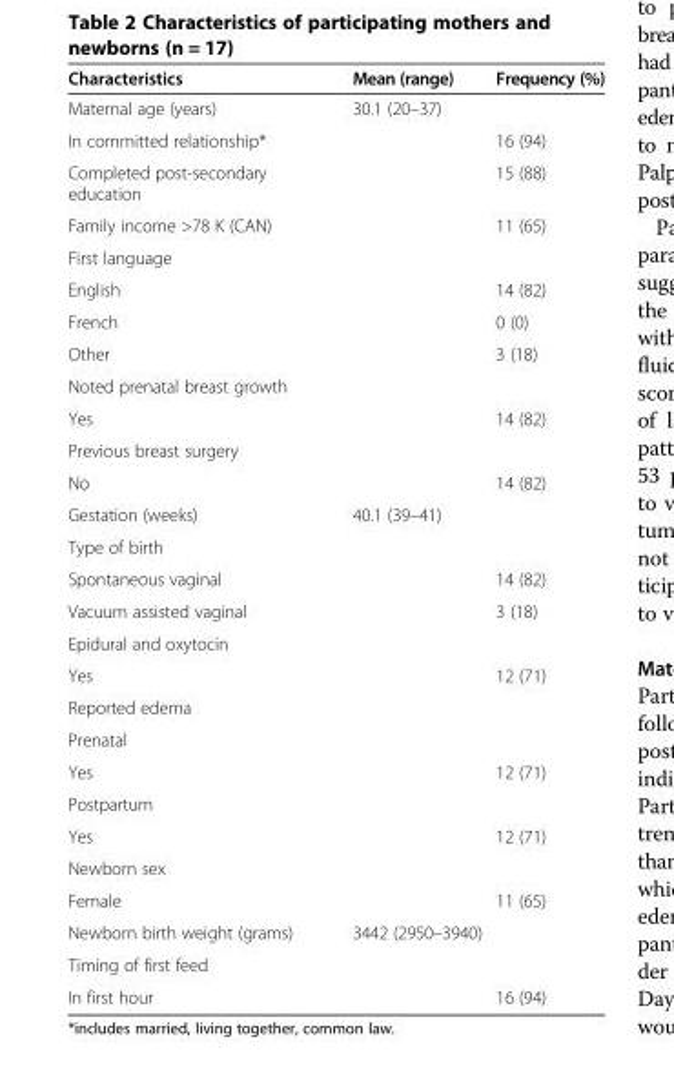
<table><thead><tr><td>Characteristics</td><td>Mean (range)</td><td>Frequency (%)</td></tr></thead><tbody><tr><td>Maternal age (years)</td><td>30.1 (20–37)</td><td></td></tr><tr><td>In committed relationship*</td><td></td><td>16 (94)</td></tr><tr><td>Completed post-secondary education</td><td></td><td>15 (88)</td></tr><tr><td>Family income &gt;78 K (CAN)</td><td></td><td>11 (65)</td></tr><tr><td colspan="3">First language</td></tr><tr><td>English</td><td></td><td>14 (82)</td></tr><tr><td>French</td><td></td><td>0 (0)</td></tr><tr><td>Other</td><td></td><td>3 (18)</td></tr><tr><td colspan="3">Noted prenatal breast growth</td></tr><tr><td>Yes</td><td></td><td>14 (82)</td></tr><tr><td colspan="3">Previous breast surgery</td></tr><tr><td>No</td><td></td><td>14 (82)</td></tr><tr><td>Gestation (weeks)</td><td>40.1 (39–41)</td><td></td></tr><tr><td colspan="3">Type of birth</td></tr><tr><td>Spontaneous vaginal</td><td></td><td>14 (82)</td></tr><tr><td>Vacuum assisted vaginal</td><td></td><td>3 (18)</td></tr><tr><td colspan="3">Epidural and oxytocin</td></tr><tr><td>Yes</td><td></td><td>12 (71)</td></tr><tr><td colspan="3">Reported edema</td></tr><tr><td colspan="3">Prenatal</td></tr><tr><td>Yes</td><td></td><td>12 (71)</td></tr><tr><td colspan="3">Postpartum</td></tr><tr><td>Yes</td><td></td><td>12 (71)</td></tr><tr><td colspan="3">Newborn sex</td></tr><tr><td>Female</td><td></td><td>11 (65)</td></tr><tr><td>Newborn birth weight (grams)</td><td>3442 (2950–3940)</td><td></td></tr><tr><td colspan="3">Timing of first feed</td></tr><tr><td>In first hour</td><td></td><td>16 (94)</td></tr></tbody></table>